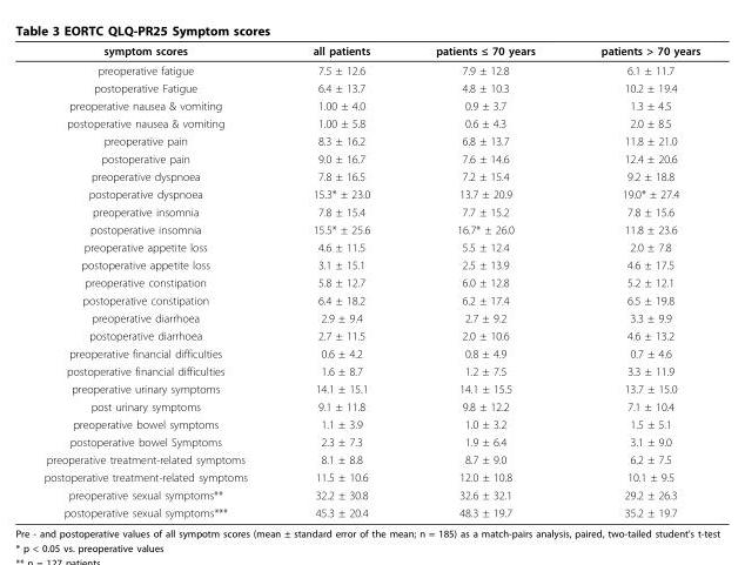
<table><thead><tr><td>symptom scores</td><td>all patients</td><td>patients ≤ 70 years</td><td>patients &gt; 70 years</td></tr></thead><tbody><tr><td>preoperative fatigue</td><td>7.5 ± 12.6</td><td>7.9 ± 12.8</td><td>6.1 ± 11.7</td></tr><tr><td>postoperative Fatigue</td><td>6.4 ± 13.7</td><td>4.8 ± 10.3</td><td>10.2 ± 19.4</td></tr><tr><td>preoperative nausea &amp; vomiting</td><td>1.00 ± 4.0</td><td>0.9 ± 3.7</td><td>1.3 ± 4.5</td></tr><tr><td>postoperative nausea &amp; vomiting</td><td>1.00 ± 5.8</td><td>0.6 ± 4.3</td><td>2.0 ± 8.5</td></tr><tr><td>preoperative pain</td><td>8.3 ± 16.2</td><td>6.8 ± 13.7</td><td>11.8 ± 21.0</td></tr><tr><td>postoperative pain</td><td>9.0 ± 16.7</td><td>7.6 ± 14.6</td><td>12.4 ± 20.6</td></tr><tr><td>preoperative dyspnoea</td><td>7.8 ± 16.5</td><td>7.2 ± 15.4</td><td>9.2 ± 18.8</td></tr><tr><td>postoperative dyspnoea</td><td>15.3* ± 23.0</td><td>13.7 ± 20.9</td><td>19.0* ± 27.4</td></tr><tr><td>preoperative insomnia</td><td>7.8 ± 15.4</td><td>7.7 ± 15.2</td><td>7.8 ± 15.6</td></tr><tr><td>postoperative insomnia</td><td>15.5* ± 25.6</td><td>16.7* ± 26.0</td><td>11.8 ± 23.6</td></tr><tr><td>preoperative appetite loss</td><td>4.6 ± 11.5</td><td>5.5 ± 12.4</td><td>2.0 ± 7.8</td></tr><tr><td>postoperative appetite loss</td><td>3.1 ± 15.1</td><td>2.5 ± 13.9</td><td>4.6 ± 17.5</td></tr><tr><td>preoperative constipation</td><td>5.8 ± 12.7</td><td>6.0 ± 12.8</td><td>5.2 ± 12.1</td></tr><tr><td>postoperative constipation</td><td>6.4 ± 18.2</td><td>6.2 ± 17.4</td><td>6.5 ± 19.8</td></tr><tr><td>preoperative diarrhoea</td><td>2.9 ± 9.4</td><td>2.7 ± 9.2</td><td>3.3 ± 9.9</td></tr><tr><td>postoperative diarrhoea</td><td>2.7 ± 11.5</td><td>2.0 ± 10.6</td><td>4.6 ± 13.2</td></tr><tr><td>preoperative financial difficulties</td><td>0.6 ± 4.2</td><td>0.8 ± 4.9</td><td>0.7 ± 4.6</td></tr><tr><td>postoperative financial difficulties</td><td>1.6 ± 8.7</td><td>1.2 ± 7.5</td><td>3.3 ± 11.9</td></tr><tr><td>preoperative urinary symptoms</td><td>14.1 ± 15.1</td><td>14.1 ± 15.5</td><td>13.7 ± 15.0</td></tr><tr><td>post urinary symptoms</td><td>9.1 ± 11.8</td><td>9.8 ± 12.2</td><td>7.1 ± 10.4</td></tr><tr><td>preoperative bowel symptoms</td><td>1.1 ± 3.9</td><td>1.0 ± 3.2</td><td>1.5 ± 5.1</td></tr><tr><td>postoperative bowel Symptoms</td><td>2.3 ± 7.3</td><td>1.9 ± 6.4</td><td>3.1 ± 9.0</td></tr><tr><td>preoperative treatment-related symptoms</td><td>8.1 ± 8.8</td><td>8.7 ± 9.0</td><td>6.2 ± 7.5</td></tr><tr><td>postoperative treatment-related symptoms</td><td>11.5 ± 10.6</td><td>12.0 ± 10.8</td><td>10.1 ± 9.5</td></tr><tr><td>preoperative sexual symptoms**</td><td>32.2 ± 30.8</td><td>32.6 ± 32.1</td><td>29.2 ± 26.3</td></tr><tr><td>postoperative sexual symptoms***</td><td>45.3 ± 20.4</td><td>48.3 ± 19.7</td><td>35.2 ± 19.7</td></tr></tbody></table>